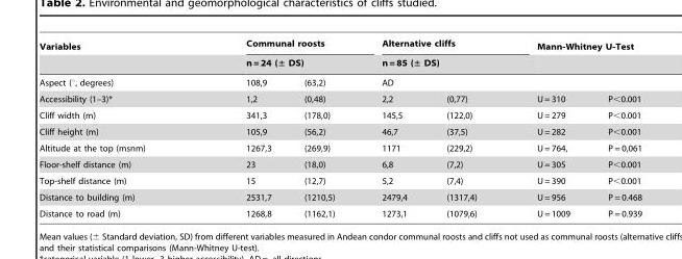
<table><thead><tr><td rowspan="3">Variables Aspect (°, degrees)</td><td rowspan="2" colspan="2">Communal roosts n = 24 (± DS)</td><td rowspan="2" colspan="2">Alternative cliffs n = 85 (± DS)</td><td colspan="2">Mann-Whitney U-Test</td></tr><tr><td rowspan="2"></td><td rowspan="2"></td></tr><tr><td>108,9</td><td>(63,2)</td><td>AD</td><td></td></tr></thead><tbody><tr><td>Accessibility (1–3)*</td><td>1,2</td><td>(0,48)</td><td>2,2</td><td>(0,77)</td><td>U = 310</td><td>P&lt;0.001</td></tr><tr><td>Cliff width (m)</td><td>341,3</td><td>(178,0)</td><td>145,5</td><td>(122,0)</td><td>U = 279</td><td>P&lt;0.001</td></tr><tr><td>Cliff height (m)</td><td>105,9</td><td>(56,2)</td><td>46,7</td><td>(37,5)</td><td>U = 282</td><td>P&lt;0.001</td></tr><tr><td>Altitude at the top (msnm)</td><td>1267,3</td><td>(269,9)</td><td>1171</td><td>(229,2)</td><td>U = 764,</td><td>P = 0,061</td></tr><tr><td>Floor-shelf distance (m)</td><td>23</td><td>(18,0)</td><td>6,8</td><td>(7,2)</td><td>U = 305</td><td>P&lt;0.001</td></tr><tr><td>Top-shelf distance (m)</td><td>15</td><td>(12,7)</td><td>5,2</td><td>(7,4)</td><td>U = 390</td><td>P&lt;0.001</td></tr><tr><td>Distance to building (m)</td><td>2531,7</td><td>(1210,5)</td><td>2479,4</td><td>(1317,4)</td><td>U = 956</td><td>P = 0.468</td></tr><tr><td>Distance to road (m)</td><td>1268,8</td><td>(1162,1)</td><td>1273,1</td><td>(1079,6)</td><td>U = 1009</td><td>P = 0.939</td></tr></tbody></table>